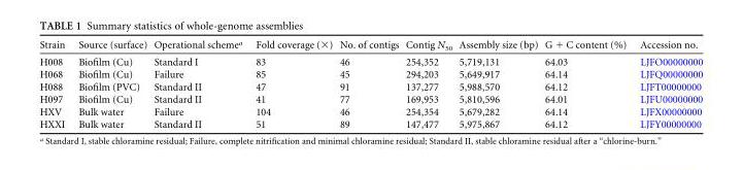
<table><thead><tr><td>Strain</td><td>Source (surface)</td><td>Operational scheme<sup>a</sup></td><td>Fold coverage (×)</td><td>No. of contigs</td><td>Contig N<sub>50</sub></td><td>Assembly size (bp)</td><td>G + C content (%)</td><td>Accession no.</td></tr></thead><tbody><tr><td>H008</td><td>Biofilm (Cu)</td><td>Standard I</td><td>83</td><td>46</td><td>254,352</td><td>5,719,131</td><td>64.03</td><td>LJFO00000000</td></tr><tr><td>H068</td><td>Biofilm (Cu)</td><td>Failure</td><td>85</td><td>45</td><td>294,203</td><td>5,649,917</td><td>64.14</td><td>LJFQ00000000</td></tr><tr><td>H088</td><td>Biofilm (PVC)</td><td>Standard II</td><td>47</td><td>91</td><td>137,277</td><td>5,988,570</td><td>64.12</td><td>LJFT00000000</td></tr><tr><td>H097</td><td>Biofilm (Cu)</td><td>Standard II</td><td>41</td><td>77</td><td>169,953</td><td>5,810,596</td><td>64.01</td><td>LJFU00000000</td></tr><tr><td>HXV</td><td>Bulk water</td><td>Failure</td><td>104</td><td>46</td><td>254,354</td><td>5,679,282</td><td>64.14</td><td>LJFX00000000</td></tr><tr><td>HXXI</td><td>Bulk water</td><td>Standard II</td><td>51</td><td>89</td><td>147,477</td><td>5,975,867</td><td>64.12</td><td>LJFY00000000</td></tr></tbody></table>